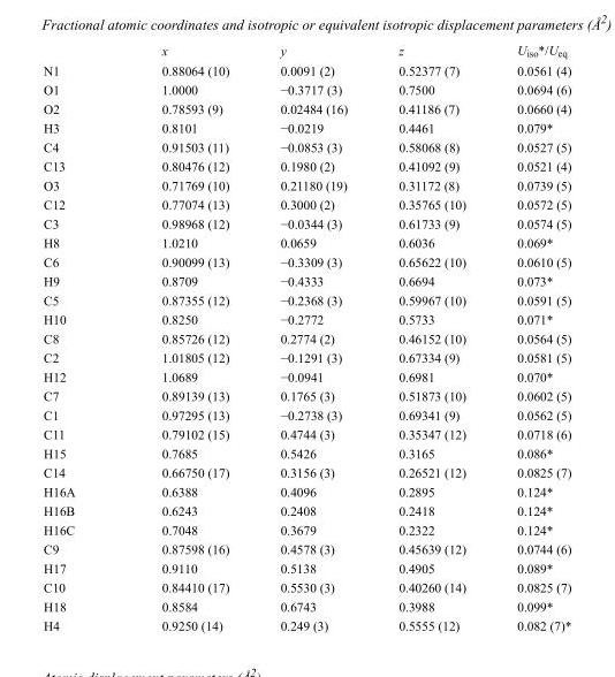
<table><thead><tr><td></td><td>x</td><td>y</td><td>z</td><td>U<sub>iso</sub>*/U<sub>eq</sub></td></tr></thead><tbody><tr><td>N1</td><td>0.88064 (10)</td><td>0.0091 (2)</td><td>0.52377 (7)</td><td>0.0561 (4)</td></tr><tr><td>O1</td><td>1.0000</td><td>−0.3717 (3)</td><td>0.7500</td><td>0.0694 (6)</td></tr><tr><td>O2</td><td>0.78593 (9)</td><td>0.02484 (16)</td><td>0.41186 (7)</td><td>0.0660 (4)</td></tr><tr><td>H3</td><td>0.8101</td><td>−0.0219</td><td>0.4461</td><td>0.079*</td></tr><tr><td>C4</td><td>0.91503 (11)</td><td>−0.0853 (3)</td><td>0.58068 (8)</td><td>0.0527 (5)</td></tr><tr><td>C13</td><td>0.80476 (12)</td><td>0.1980 (2)</td><td>0.41092 (9)</td><td>0.0521 (4)</td></tr><tr><td>O3</td><td>0.71769 (10)</td><td>0.21180 (19)</td><td>0.31172 (8)</td><td>0.0739 (5)</td></tr><tr><td>C12</td><td>0.77074 (13)</td><td>0.3000 (2)</td><td>0.35765 (10)</td><td>0.0572 (5)</td></tr><tr><td>C3</td><td>0.98968 (12)</td><td>−0.0344 (3)</td><td>0.61733 (9)</td><td>0.0574 (5)</td></tr><tr><td>H8</td><td>1.0210</td><td>0.0659</td><td>0.6036</td><td>0.069*</td></tr><tr><td>C6</td><td>0.90099 (13)</td><td>−0.3309 (3)</td><td>0.65622 (10)</td><td>0.0610 (5)</td></tr><tr><td>H9</td><td>0.8709</td><td>−0.4333</td><td>0.6694</td><td>0.073*</td></tr><tr><td>C5</td><td>0.87355 (12)</td><td>−0.2368 (3)</td><td>0.59967 (10)</td><td>0.0591 (5)</td></tr><tr><td>H10</td><td>0.8250</td><td>−0.2772</td><td>0.5733</td><td>0.071*</td></tr><tr><td>C8</td><td>0.85726 (12)</td><td>0.2774 (2)</td><td>0.46152 (10)</td><td>0.0564 (5)</td></tr><tr><td>C2</td><td>1.01805 (12)</td><td>−0.1291 (3)</td><td>0.67334 (9)</td><td>0.0581 (5)</td></tr><tr><td>H12</td><td>1.0689</td><td>−0.0941</td><td>0.6981</td><td>0.070*</td></tr><tr><td>C7</td><td>0.89139 (13)</td><td>0.1765 (3)</td><td>0.51873 (10)</td><td>0.0602 (5)</td></tr><tr><td>C1</td><td>0.97295 (13)</td><td>−0.2738 (3)</td><td>0.69341 (9)</td><td>0.0562 (5)</td></tr><tr><td>C11</td><td>0.79102 (15)</td><td>0.4744 (3)</td><td>0.35347 (12)</td><td>0.0718 (6)</td></tr><tr><td>H15</td><td>0.7685</td><td>0.5426</td><td>0.3165</td><td>0.086*</td></tr><tr><td>C14</td><td>0.66750 (17)</td><td>0.3156 (3)</td><td>0.26521 (12)</td><td>0.0825 (7)</td></tr><tr><td>H16A</td><td>0.6388</td><td>0.4096</td><td>0.2895</td><td>0.124*</td></tr><tr><td>H16B</td><td>0.6243</td><td>0.2408</td><td>0.2418</td><td>0.124*</td></tr><tr><td>H16C</td><td>0.7048</td><td>0.3679</td><td>0.2322</td><td>0.124*</td></tr><tr><td>C9</td><td>0.87598 (16)</td><td>0.4578 (3)</td><td>0.45639 (12)</td><td>0.0744 (6)</td></tr><tr><td>H17</td><td>0.9110</td><td>0.5138</td><td>0.4905</td><td>0.089*</td></tr><tr><td>C10</td><td>0.84410 (17)</td><td>0.5530 (3)</td><td>0.40260 (14)</td><td>0.0825 (7)</td></tr><tr><td>H18</td><td>0.8584</td><td>0.6743</td><td>0.3988</td><td>0.099*</td></tr><tr><td>H4</td><td>0.9250 (14)</td><td>0.249 (3)</td><td>0.5555 (12)</td><td>0.082 (7)*</td></tr></tbody></table>